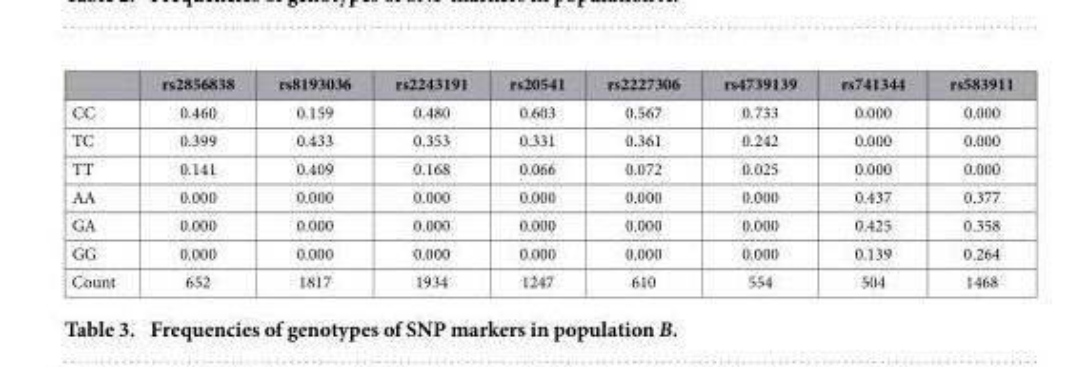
<table><thead><tr><td></td><td>rs2856838</td><td>rs8193036</td><td>rs2243191</td><td>rs20541</td><td>rs2227306</td><td>rs4739139</td><td>rs741344</td><td>rs583911</td></tr></thead><tbody><tr><td>CC</td><td>0.460</td><td>0.159</td><td>0.480</td><td>0.603</td><td>0.567</td><td>0.733</td><td>0.000</td><td>0.000</td></tr><tr><td>TC</td><td>0.399</td><td>0.433</td><td>0.353</td><td>0.331</td><td>0.361</td><td>0.242</td><td>0.000</td><td>0.000</td></tr><tr><td>TT</td><td>0.141</td><td>0.409</td><td>0.168</td><td>0.066</td><td>0.072</td><td>0.025</td><td>0.000</td><td>0.000</td></tr><tr><td>AA</td><td>0.000</td><td>0.000</td><td>0.000</td><td>0.000</td><td>0.000</td><td>0.000</td><td>0.437</td><td>0.377</td></tr><tr><td>GA</td><td>0.000</td><td>0.000</td><td>0.000</td><td>0.000</td><td>0.000</td><td>0.000</td><td>0.425</td><td>0.358</td></tr><tr><td>GG</td><td>0.000</td><td>0.000</td><td>0.000</td><td>0.000</td><td>0.000</td><td>0.000</td><td>0.139</td><td>0.264</td></tr><tr><td>Count</td><td>652</td><td>1817</td><td>1934</td><td>1247</td><td>610</td><td>554</td><td>504</td><td>1468</td></tr></tbody></table>